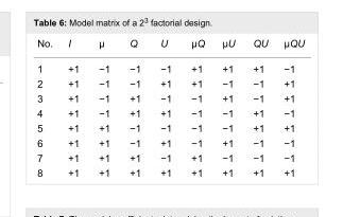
<table><tbody><tr><td>No.</td><td>I</td><td>µ</td><td>Q</td><td>U</td><td>µQ</td><td>µU</td><td>QU</td><td>µQU</td></tr><tr><td>1</td><td>+1</td><td>−1</td><td>−1</td><td>−1</td><td>+1</td><td>+1</td><td>+1</td><td>−1</td></tr><tr><td>2</td><td>+1</td><td>−1</td><td>−1</td><td>+1</td><td>+1</td><td>−1</td><td>−1</td><td>+1</td></tr><tr><td>3</td><td>+1</td><td>−1</td><td>+1</td><td>−1</td><td>−1</td><td>+1</td><td>−1</td><td>+1</td></tr><tr><td>4</td><td>+1</td><td>−1</td><td>+1</td><td>+1</td><td>−1</td><td>−1</td><td>+1</td><td>−1</td></tr><tr><td>5</td><td>+1</td><td>+1</td><td>−1</td><td>−1</td><td>−1</td><td>−1</td><td>+1</td><td>+1</td></tr><tr><td>6</td><td>+1</td><td>+1</td><td>−1</td><td>+1</td><td>−1</td><td>+1</td><td>−1</td><td>−1</td></tr><tr><td>7</td><td>+1</td><td>+1</td><td>+1</td><td>−1</td><td>+1</td><td>−1</td><td>−1</td><td>−1</td></tr><tr><td>8</td><td>+1</td><td>+1</td><td>+1</td><td>+1</td><td>+1</td><td>+1</td><td>+1</td><td>+1</td></tr></tbody></table>